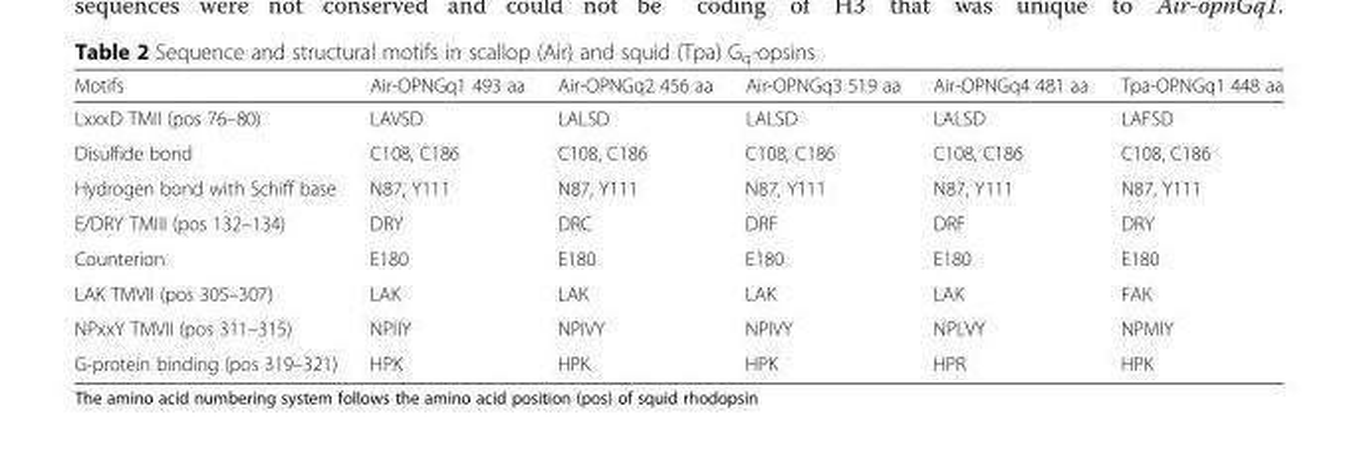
<table><thead><tr><td>Motifs</td><td>Air-OPNGq1 493 aa</td><td>Air-OPNGq2 456 aa</td><td>Air-OPNGq3 519 aa</td><td>Air-OPNGq4 481 aa</td><td>Tpa-OPNGq1 448 aa</td></tr></thead><tbody><tr><td>LxxxD TMII (pos 76–80)</td><td>LAVSD</td><td>LALSD</td><td>LALSD</td><td>LALSD</td><td>LAFSD</td></tr><tr><td>Disulfide bond</td><td>C108, C186</td><td>C108, C186</td><td>C108, C186</td><td>C108, C186</td><td>C108, C186</td></tr><tr><td>Hydrogen bond with Schiff base</td><td>N87, Y111</td><td>N87, Y111</td><td>N87, Y111</td><td>N87, Y111</td><td>N87, Y111</td></tr><tr><td>E/DRY TMIII (pos 132–134)</td><td>DRY</td><td>DRC</td><td>DRF</td><td>DRF</td><td>DRY</td></tr><tr><td>Counterion</td><td>E180</td><td>E180</td><td>E180</td><td>E180</td><td>E180</td></tr><tr><td>LAK TMVII (pos 305–307)</td><td>LAK</td><td>LAK</td><td>LAK</td><td>LAK</td><td>FAK</td></tr><tr><td>NPxxY TMVII (pos 311–315)</td><td>NPIIY</td><td>NPIVY</td><td>NPIVY</td><td>NPLVY</td><td>NPMIY</td></tr><tr><td>G-protein binding (pos 319–321)</td><td>HPK</td><td>HPK</td><td>HPK</td><td>HPR</td><td>HPK</td></tr></tbody></table>